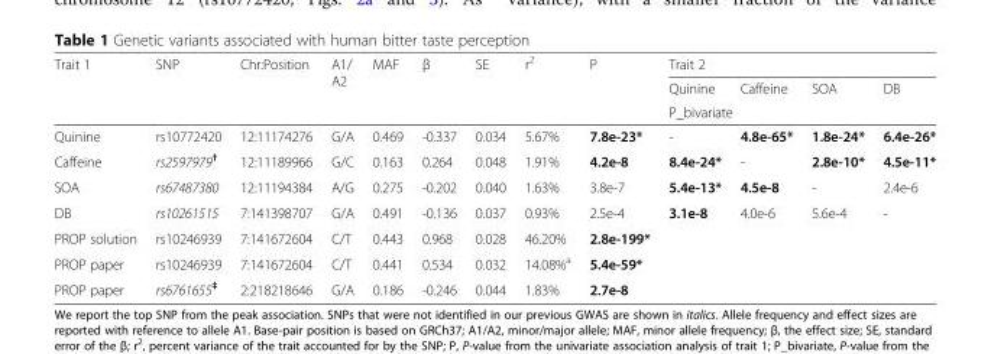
<table><thead><tr><td rowspan="3">Trait 1</td><td rowspan="3">SNP</td><td rowspan="3">Chr:Position</td><td rowspan="3">A1/ A2</td><td rowspan="3">MAF</td><td rowspan="3">β</td><td rowspan="3">SE</td><td rowspan="3">r<sup>2</sup></td><td rowspan="3">P</td><td colspan="4">Trait 2</td></tr><tr><td>Quinine</td><td>Caffeine</td><td>SOA</td><td>DB</td></tr><tr><td colspan="4">P_bivariate</td></tr></thead><tbody><tr><td>Quinine</td><td>rs10772420</td><td>12:11174276</td><td>G/A</td><td>0.469</td><td>-0.337</td><td>0.034</td><td>5.67%</td><td>7.8e-23*</td><td>-</td><td>4.8e-65*</td><td>1.8e-24*</td><td>6.4e-26*</td></tr><tr><td>Caffeine</td><td>rs2597979<sup>†</sup></td><td>12:11189966</td><td>G/C</td><td>0.163</td><td>0.264</td><td>0.048</td><td>1.91%</td><td>4.2e-8</td><td>8.4e-24*</td><td>-</td><td>2.8e-10*</td><td>4.5e-11*</td></tr><tr><td>SOA</td><td>rs67487380</td><td>12:11194384</td><td>A/G</td><td>0.275</td><td>-0.202</td><td>0.040</td><td>1.63%</td><td>3.8e-7</td><td>5.4e-13*</td><td>4.5e-8</td><td>-</td><td>2.4e-6</td></tr><tr><td>DB</td><td>rs10261515</td><td>7:141398707</td><td>G/A</td><td>0.491</td><td>-0.136</td><td>0.037</td><td>0.93%</td><td>2.5e-4</td><td>3.1e-8</td><td>4.0e-6</td><td>5.6e-4</td><td>-</td></tr><tr><td>PROP solution</td><td>rs10246939</td><td>7:141672604</td><td>C/T</td><td>0.443</td><td>0.968</td><td>0.028</td><td>46.20%</td><td>2.8e-199*</td><td></td><td></td><td></td><td></td></tr><tr><td>PROP paper</td><td>rs10246939</td><td>7:141672604</td><td>C/T</td><td>0.441</td><td>0.534</td><td>0.032</td><td>14.08%<sup>a</sup></td><td>5.4e-59*</td><td></td><td></td><td></td><td></td></tr><tr><td>PROP paper</td><td>rs6761655<sup>‡</sup></td><td>2:218218646</td><td>G/A</td><td>0.186</td><td>-0.246</td><td>0.044</td><td>1.83%</td><td>2.7e-8</td><td></td><td></td><td></td><td></td></tr></tbody></table>